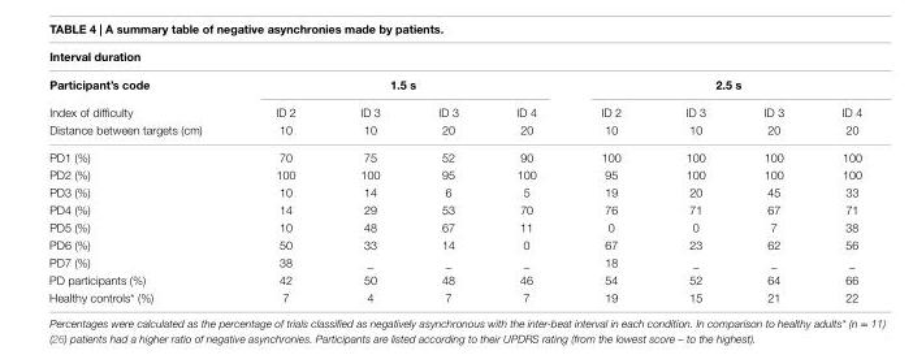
<table><thead><tr><td colspan="9">interval duration</td></tr><tr><td rowspan="2">Participant’s code Index of difficulty</td><td colspan="4">1.5 s</td><td colspan="4">2.5 s</td></tr><tr><td>ID 2</td><td>ID 3</td><td>ID 3</td><td>ID 4</td><td>ID 2</td><td>ID 3</td><td>ID 3</td><td>ID 4</td></tr></thead><tbody><tr><td>Distance between targets (cm)</td><td>10</td><td>10</td><td>20</td><td>20</td><td>10</td><td>10</td><td>20</td><td>20</td></tr><tr><td>PD1 (%)</td><td>70</td><td>75</td><td>52</td><td>90</td><td>100</td><td>100</td><td>100</td><td>100</td></tr><tr><td>PD2 (%)</td><td>100</td><td>100</td><td>95</td><td>100</td><td>95</td><td>100</td><td>100</td><td>100</td></tr><tr><td>PD3 (%)</td><td>10</td><td>14</td><td>6</td><td>5</td><td>19</td><td>20</td><td>45</td><td>33</td></tr><tr><td>PD4 (%)</td><td>14</td><td>29</td><td>53</td><td>70</td><td>76</td><td>71</td><td>67</td><td>71</td></tr><tr><td>PD5 (%)</td><td>10</td><td>48</td><td>67</td><td>11</td><td>0</td><td>0</td><td>7</td><td>38</td></tr><tr><td>PD6 (%)</td><td>50</td><td>33</td><td>14</td><td>0</td><td>67</td><td>23</td><td>62</td><td>56</td></tr><tr><td>PD7 (%)</td><td>38</td><td>_</td><td>_</td><td>_</td><td>18</td><td>_</td><td>_</td><td>_</td></tr><tr><td>PD participants (%)</td><td>42</td><td>50</td><td>48</td><td>46</td><td>54</td><td>52</td><td>64</td><td>66</td></tr><tr><td>Healthy controls* (%)</td><td>7</td><td>4</td><td>7</td><td>7</td><td>19</td><td>15</td><td>21</td><td>22</td></tr></tbody></table>